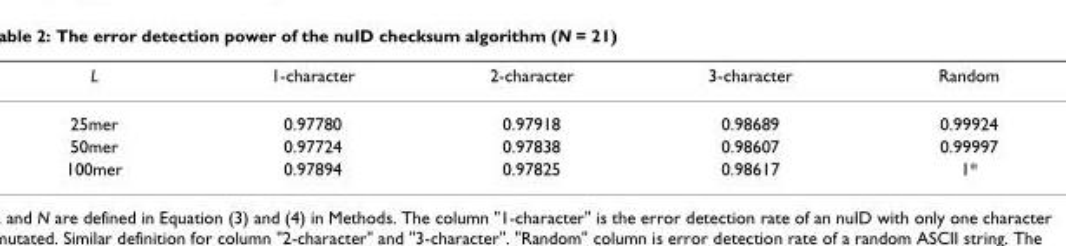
<table><thead><tr><td>L</td><td>1-character</td><td>2-character</td><td>3-character</td><td>Random</td></tr></thead><tbody><tr><td>25mer</td><td>0.97780</td><td>0.97918</td><td>0.98689</td><td>0.99924</td></tr><tr><td>50mer</td><td>0.97724</td><td>0.97838</td><td>0.98607</td><td>0.99997</td></tr><tr><td>100mer</td><td>0.97894</td><td>0.97825</td><td>0.98617</td><td>1*</td></tr></tbody></table>